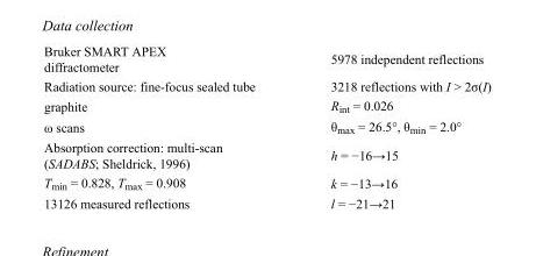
<table><tbody><tr><td>Bruker SMART APEX diffractometer</td><td>5978 independent reflections</td></tr><tr><td>Radiation source: fine-focus sealed tube</td><td>3218 reflections with I &gt; 2σ(I)</td></tr><tr><td>graphite</td><td>R<sub>int</sub> = 0.026</td></tr><tr><td>ω scans</td><td>θ<sub>max</sub> = 26.5°, θ<sub>min</sub> = 2.0°</td></tr><tr><td>Absorption correction: multi-scan (SADABS; Sheldrick, 1996)</td><td>h = −16→15</td></tr><tr><td>T<sub>min</sub> = 0.828, T<sub>max</sub> = 0.908</td><td>k = −13→16</td></tr><tr><td>13126 measured reflections</td><td>l = −21→21</td></tr></tbody></table>